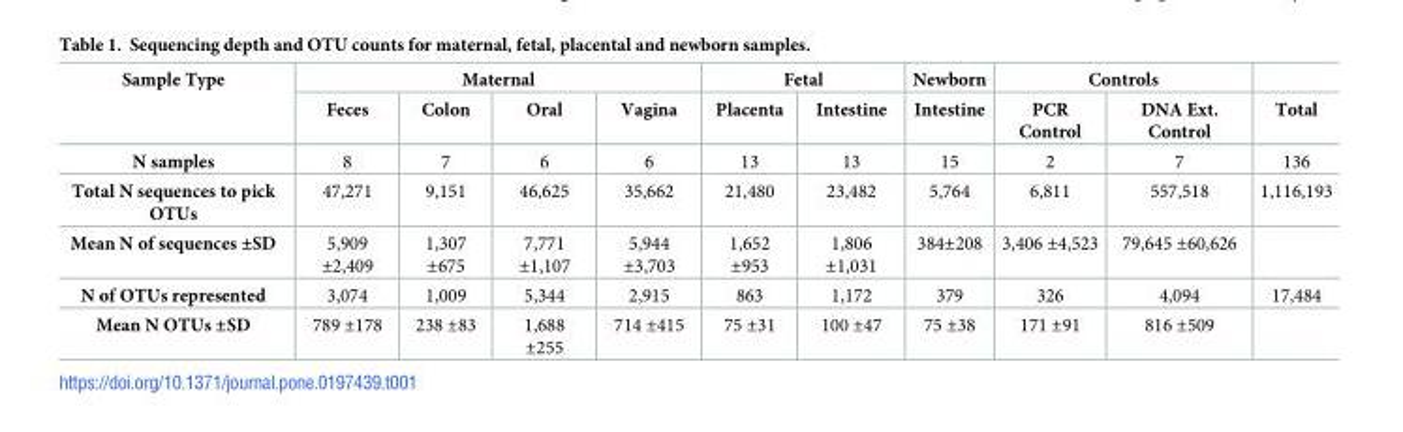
<table><thead><tr><td rowspan="2">Sample Type</td><td colspan="4">Maternal</td><td colspan="2">Fetal</td><td rowspan="2">Newborn Intestine</td><td colspan="2">Controls</td><td rowspan="2">Total</td></tr><tr><td>Feces</td><td>Colon</td><td>Oral</td><td>Vagina</td><td>Placenta</td><td>Intestine</td><td>PCR Control</td><td>DNA Ext. Control</td></tr></thead><tbody><tr><td>N samples</td><td>8</td><td>7</td><td>6</td><td>6</td><td>13</td><td>13</td><td>15</td><td>2</td><td>7</td><td>136</td></tr><tr><td>Total N sequences to pick OTUs</td><td>47,271</td><td>9,151</td><td>46,625</td><td>35,662</td><td>21,480</td><td>23,482</td><td>5,764</td><td>6,811</td><td>557,518</td><td>1,116,193</td></tr><tr><td>Mean N of sequences ±SD</td><td>5,909 ±2,409</td><td>1,307 ±675</td><td>7,771 ±1,107</td><td>5,944 ±3,703</td><td>1,652 ±953</td><td>1,806 ±1,031</td><td>384±208</td><td>3,406 ±4,523</td><td>79,645 ±60,626</td><td></td></tr><tr><td>N of OTUs represented</td><td>3,074</td><td>1,009</td><td>5,344</td><td>2,915</td><td>863</td><td>1,172</td><td>379</td><td>326</td><td>4,094</td><td>17,484</td></tr><tr><td>Mean N OTUs ±SD</td><td>789 ±178</td><td>238 ±83</td><td>1,688 ±255</td><td>714 ±415</td><td>75 ±31</td><td>100 ±47</td><td>75 ±38</td><td>171 ±91</td><td>816 ±509</td><td></td></tr></tbody></table>